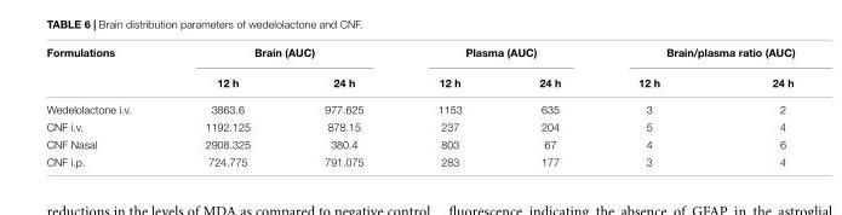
<table><thead><tr><td rowspan="2">Formulations</td><td colspan="2">Brain (AUC)</td><td colspan="2">Plasma (AUC)</td><td colspan="2">Brain/plasma ratio (AUC)</td></tr><tr><td>12 h</td><td>24 h</td><td>12 h</td><td>24 h</td><td>12 h</td><td>24 h</td></tr></thead><tbody><tr><td>Wedelolactone i.v.</td><td>3863.6</td><td>977.625</td><td>1153</td><td>635</td><td>3</td><td>2</td></tr><tr><td>CNF i.v.</td><td>1192.125</td><td>878.15</td><td>237</td><td>204</td><td>5</td><td>4</td></tr><tr><td>CNF Nasal</td><td>2908.325</td><td>380.4</td><td>803</td><td>67</td><td>4</td><td>6</td></tr><tr><td>CNF i.p.</td><td>724.775</td><td>791.075</td><td>283</td><td>177</td><td>3</td><td>4</td></tr></tbody></table>